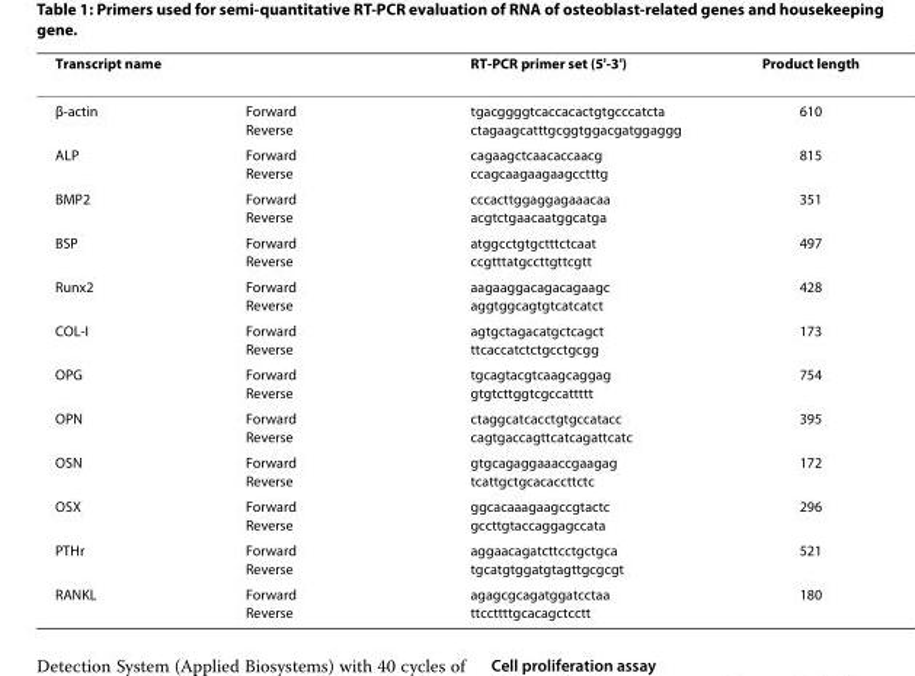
<table><thead><tr><td>Transcript name</td><td></td><td>RT-PCR primer set (5&#x27;-3&#x27;)</td><td>Product length</td></tr></thead><tbody><tr><td>β-actin</td><td>Forward Reverse</td><td>tgacggggtcaccacactgtgcccatcta ctagaagcatttgcggtggacgatggaggg</td><td>610</td></tr><tr><td>ALP</td><td>Forward Reverse</td><td>cagaagctcaacaccaacg ccagcaagaagaagcctttg</td><td>815</td></tr><tr><td>BMP2</td><td>Forward Reverse</td><td>cccacttggaggagaaacaa acgtctgaacaatggcatga</td><td>351</td></tr><tr><td>BSP</td><td>Forward Reverse</td><td>atggcctgtgctttctcaat ccgtttatgccttgttcgtt</td><td>497</td></tr><tr><td>Runx2</td><td>Forward Reverse</td><td>aagaaggacagacagaagc aggtggcagtgtcatcatct</td><td>428</td></tr><tr><td>COL-I</td><td>Forward Reverse</td><td>agtgctagacatgctcagct ttcaccatctctgcctgcgg</td><td>173</td></tr><tr><td>OPG</td><td>Forward Reverse</td><td>tgcagtacgtcaagcaggag gtgtcttggtcgccattttt</td><td>754</td></tr><tr><td>OPN</td><td>Forward Reverse</td><td>ctaggcatcacctgtgccatacc cagtgaccagttcatcagattcatc</td><td>395</td></tr><tr><td>OSN</td><td>Forward Reverse</td><td>gtgcagaggaaaccgaagag tcattgctgcacaccttctc</td><td>172</td></tr><tr><td>OSX</td><td>Forward Reverse</td><td>ggcacaaagaagccgtactc gccttgtaccaggagccata</td><td>296</td></tr><tr><td>PTHr</td><td>Forward Reverse</td><td>aggaacagatcttcctgctgca tgcatgtggatgtagttgcgcgt</td><td>521</td></tr><tr><td>RANKL</td><td>Forward Reverse</td><td>agagcgcagatggatcctaa ttccttttgcacagctcctt</td><td>180</td></tr></tbody></table>